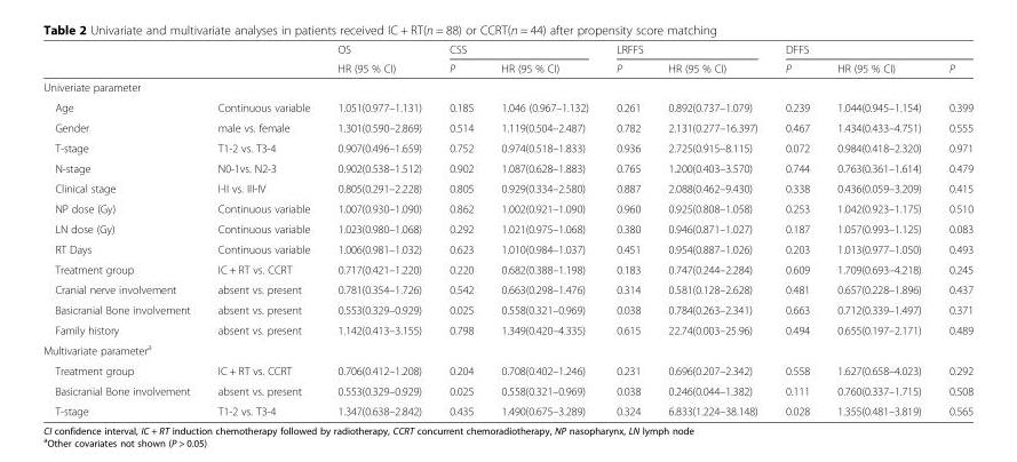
<table><thead><tr><td rowspan="2"></td><td rowspan="2"></td><td rowspan="2">OS HR (95 % CI)</td><td colspan="2">CSS</td><td colspan="2">LRFFS</td><td colspan="3">DFFS</td></tr><tr><td>P</td><td>HR (95 % CI)</td><td>P</td><td>HR (95 % CI)</td><td>P</td><td>HR (95 % CI)</td><td>P</td></tr></thead><tbody><tr><td colspan="10">Univeriate parameter</td></tr><tr><td>Age</td><td>Continuous variable</td><td>1.051(0.977–1.131)</td><td>0.185</td><td>1.046 (0.967–1.132)</td><td>0.261</td><td>0.892(0.737–1.079)</td><td>0.239</td><td>1.044(0.945–1.154)</td><td>0.399</td></tr><tr><td>Gender</td><td>male vs. female</td><td>1.301(0.590–2.869)</td><td>0.514</td><td>1.119(0.504–2.487)</td><td>0.782</td><td>2.131(0.277–16.397)</td><td>0.467</td><td>1.434(0.433–4.751)</td><td>0.555</td></tr><tr><td>T-stage</td><td>T1-2 vs. T3-4</td><td>0.907(0.496–1.659)</td><td>0.752</td><td>0.974(0.518–1.833)</td><td>0.936</td><td>2.725(0.915–8.115)</td><td>0.072</td><td>0.984(0.418–2.320)</td><td>0.971</td></tr><tr><td>N-stage</td><td>N0-1vs. N2-3</td><td>0.902(0.538–1.512)</td><td>0.902</td><td>1.087(0.628–1.883)</td><td>0.765</td><td>1.200(0.403–3.570)</td><td>0.744</td><td>0.763(0.361–1.614)</td><td>0.479</td></tr><tr><td>Clinical stage</td><td>I-II vs. III-IV</td><td>0.805(0.291–2.228)</td><td>0.805</td><td>0.929(0.334–2.580)</td><td>0.887</td><td>2.088(0.462–9.430)</td><td>0.338</td><td>0.436(0.059–3.209)</td><td>0.415</td></tr><tr><td>NP dose (Gy)</td><td>Continuous variable</td><td>1.007(0.930–1.090)</td><td>0.862</td><td>1.002(0.921–1.090)</td><td>0.960</td><td>0.925(0.808–1.058)</td><td>0.253</td><td>1.042(0.923–1.175)</td><td>0.510</td></tr><tr><td>LN dose (Gy)</td><td>Continuous variable</td><td>1.023(0.980–1.068)</td><td>0.292</td><td>1.021(0.975–1.068)</td><td>0.380</td><td>0.946(0.871–1.027)</td><td>0.187</td><td>1.057(0.993–1.125)</td><td>0.083</td></tr><tr><td>RT Days</td><td>Continuous variable</td><td>1.006(0.981–1.032)</td><td>0.623</td><td>1.010(0.984–1.037)</td><td>0.451</td><td>0.954(0.887–1.026)</td><td>0.203</td><td>1.013(0.977–1.050)</td><td>0.493</td></tr><tr><td>Treatment group</td><td>IC + RT vs. CCRT</td><td>0.717(0.421–1.220)</td><td>0.220</td><td>0.682(0.388–1.198)</td><td>0.183</td><td>0.747(0.244–2.284)</td><td>0.609</td><td>1.709(0.693–4.218)</td><td>0.245</td></tr><tr><td>Cranial nerve involvement</td><td>absent vs. present</td><td>0.781(0.354–1.726)</td><td>0.542</td><td>0.663(0.298–1.476)</td><td>0.314</td><td>0.581(0.128–2.628)</td><td>0.481</td><td>0.657(0.228–1.896)</td><td>0.437</td></tr><tr><td>Basicranial Bone involvement</td><td>absent vs. present</td><td>0.553(0.329–0.929)</td><td>0.025</td><td>0.558(0.321–0.969)</td><td>0.038</td><td>0.784(0.263–2.341)</td><td>0.663</td><td>0.712(0.339–1.497)</td><td>0.371</td></tr><tr><td>Family history</td><td>absent vs. present</td><td>1.142(0.413–3.155)</td><td>0.798</td><td>1.349(0.420–4.335)</td><td>0.615</td><td>22.74(0.003–25.96)</td><td>0.494</td><td>0.655(0.197–2.171)</td><td>0.489</td></tr><tr><td colspan="10">Multivariate parameter<sup>a</sup></td></tr><tr><td>Treatment group</td><td>IC + RT vs. CCRT</td><td>0.706(0.412–1.208)</td><td>0.204</td><td>0.708(0.402–1.246)</td><td>0.231</td><td>0.696(0.207–2.342)</td><td>0.558</td><td>1.627(0.658–4.023)</td><td>0.292</td></tr><tr><td>Basicranial Bone involvement</td><td>absent vs. present</td><td>0.553(0.329–0.929)</td><td>0.025</td><td>0.558(0.321–0.969)</td><td>0.038</td><td>0.246(0.044–1.382)</td><td>0.111</td><td>0.760(0.337–1.715)</td><td>0.508</td></tr><tr><td>T-stage</td><td>T1-2 vs. T3-4</td><td>1.347(0.638–2.842)</td><td>0.435</td><td>1.490(0.675–3.289)</td><td>0.324</td><td>6.833(1.224–38.148)</td><td>0.028</td><td>1.355(0.481–3.819)</td><td>0.565</td></tr></tbody></table>